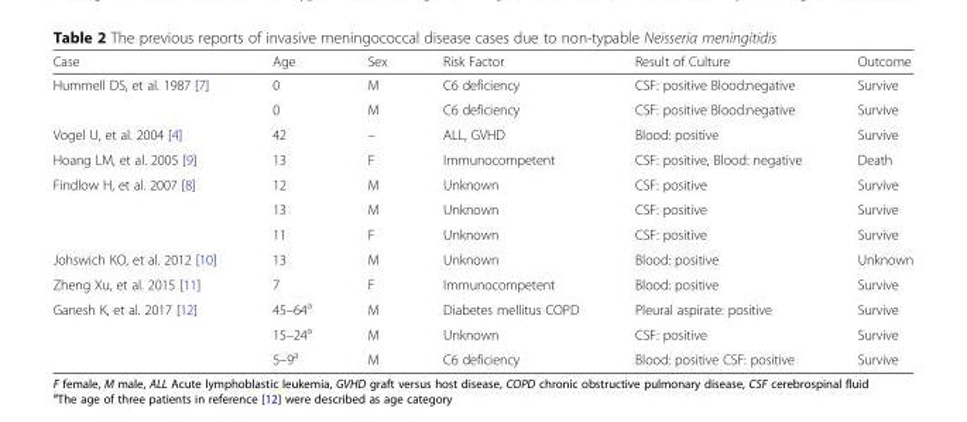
<table><thead><tr><td>Case</td><td>Age</td><td>Sex</td><td>Risk Factor</td><td>Result of Culture</td><td>Outcome</td></tr></thead><tbody><tr><td rowspan="2">Hummell DS, et al. 1987 [7]</td><td>0</td><td>M</td><td>C6 deficiency</td><td>CSF: positive Blood:negative</td><td>Survive</td></tr><tr><td>0</td><td>M</td><td>C6 deficiency</td><td>CSF: positive Blood:negative</td><td>Survive</td></tr><tr><td>Vogel U, et al. 2004 [4]</td><td>42</td><td>–</td><td>ALL, GVHD</td><td>Blood: positive</td><td>Survive</td></tr><tr><td>Hoang LM, et al. 2005 [9]</td><td>13</td><td>F</td><td>Immunocompetent</td><td>CSF: positive, Blood: negative</td><td>Death</td></tr><tr><td rowspan="3">Findlow H, et al. 2007 [8]</td><td>12</td><td>M</td><td>Unknown</td><td>CSF: positive</td><td>Survive</td></tr><tr><td>13</td><td>M</td><td>Unknown</td><td>CSF: positive</td><td>Survive</td></tr><tr><td>11</td><td>F</td><td>Unknown</td><td>CSF: positive</td><td>Survive</td></tr><tr><td>Johswich KO, et al. 2012 [10]</td><td>13</td><td>M</td><td>Unknown</td><td>Blood: positive</td><td>Unknown</td></tr><tr><td>Zheng Xu, et al. 2015 [11]</td><td>7</td><td>F</td><td>Immunocompetent</td><td>Blood: positive</td><td>Survive</td></tr><tr><td rowspan="3">Ganesh K, et al. 2017 [12]</td><td>45–64<sup>a</sup></td><td>M</td><td>Diabetes mellitus COPD</td><td>Pleural aspirate: positive</td><td>Survive</td></tr><tr><td>15–24<sup>a</sup></td><td>M</td><td>Unknown</td><td>CSF: positive</td><td>Survive</td></tr><tr><td>5–9<sup>a</sup></td><td>M</td><td>C6 deficiency</td><td>Blood: positive CSF: positive</td><td>Survive</td></tr></tbody></table>